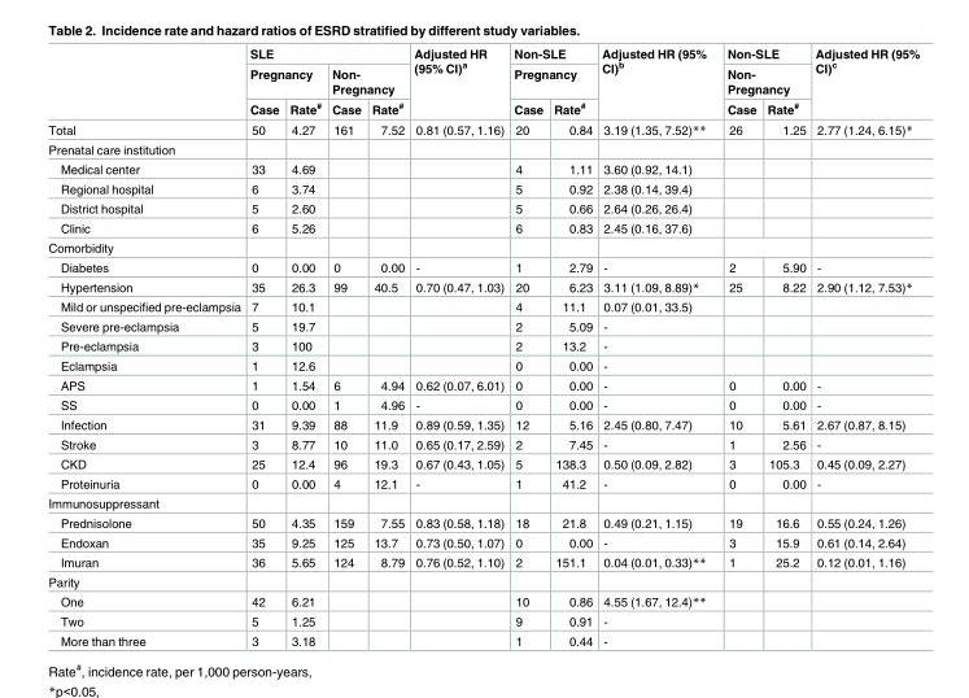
<table><thead><tr><td rowspan="3"></td><td colspan="4">SLE</td><td rowspan="3">Adjusted HR (95% CI)<sup>a</sup></td><td rowspan="2" colspan="2">Non-SLE Pregnancy</td><td rowspan="3">Adjusted HR (95% CI)<sup>b</sup></td><td rowspan="2" colspan="2">Non-SLE Non- Pregnancy</td><td rowspan="3">Adjusted HR (95% CI)<sup>c</sup></td></tr><tr><td colspan="2">Pregnancy</td><td colspan="2">Non- Pregnancy</td></tr><tr><td>Case</td><td>Rate<sup>#</sup></td><td>Case</td><td>Rate<sup>#</sup></td><td>Case</td><td>Rate<sup>#</sup></td><td>Case</td><td>Rate<sup>#</sup></td></tr></thead><tbody><tr><td>Total</td><td>50</td><td>4.27</td><td>161</td><td>7.52</td><td>0.81 (0.57, 1.16)</td><td>20</td><td>0.84</td><td>3.19 (1.35, 7.52)**</td><td>26</td><td>1.25</td><td>2.77 (1.24, 6.15)*</td></tr><tr><td colspan="12">Prenatal care institution</td></tr><tr><td>Medical center</td><td>33</td><td>4.69</td><td></td><td></td><td></td><td>4</td><td>1.11</td><td>3.60 (0.92, 14.1)</td><td></td><td></td><td></td></tr><tr><td>Regional hospital</td><td>6</td><td>3.74</td><td></td><td></td><td></td><td>5</td><td>0.92</td><td>2.38 (0.14, 39.4)</td><td></td><td></td><td></td></tr><tr><td>District hospital</td><td>5</td><td>2.60</td><td></td><td></td><td></td><td>5</td><td>0.66</td><td>2.64 (0.26, 26.4)</td><td></td><td></td><td></td></tr><tr><td>Clinic</td><td>6</td><td>5.26</td><td></td><td></td><td></td><td>6</td><td>0.83</td><td>2.45 (0.16, 37.6)</td><td></td><td></td><td></td></tr><tr><td colspan="12">Comorbidity</td></tr><tr><td>Diabetes</td><td>0</td><td>0.00</td><td>0</td><td>0.00</td><td>-</td><td>1</td><td>2.79</td><td>-</td><td>2</td><td>5.90</td><td>-</td></tr><tr><td>Hypertension</td><td>35</td><td>26.3</td><td>99</td><td>40.5</td><td>0.70 (0.47, 1.03)</td><td>20</td><td>6.23</td><td>3.11 (1.09, 8.89)*</td><td>25</td><td>8.22</td><td>2.90 (1.12, 7.53)*</td></tr><tr><td>Mild or unspecified pre-eclampsia</td><td>7</td><td>10.1</td><td></td><td></td><td></td><td>4</td><td>11.1</td><td>0.07 (0.01, 33.5)</td><td></td><td></td><td></td></tr><tr><td>Severe pre-eclampsia</td><td>5</td><td>19.7</td><td></td><td></td><td></td><td>2</td><td>5.09</td><td>-</td><td></td><td></td><td></td></tr><tr><td>Pre-eclampsia</td><td>3</td><td>100</td><td></td><td></td><td></td><td>2</td><td>13.2</td><td>-</td><td></td><td></td><td></td></tr><tr><td>Eclampsia</td><td>1</td><td>12.6</td><td></td><td></td><td></td><td>0</td><td>0.00</td><td>-</td><td></td><td></td><td></td></tr><tr><td>APS</td><td>1</td><td>1.54</td><td>6</td><td>4.94</td><td>0.62 (0.07, 6.01)</td><td>0</td><td>0.00</td><td>-</td><td>0</td><td>0.00</td><td>-</td></tr><tr><td>SS</td><td>0</td><td>0.00</td><td>1</td><td>4.96</td><td>-</td><td>0</td><td>0.00</td><td>-</td><td>0</td><td>0.00</td><td>-</td></tr><tr><td>Infection</td><td>31</td><td>9.39</td><td>88</td><td>11.9</td><td>0.89 (0.59, 1.35)</td><td>12</td><td>5.16</td><td>2.45 (0.80, 7.47)</td><td>10</td><td>5.61</td><td>2.67 (0.87, 8.15)</td></tr><tr><td>Stroke</td><td>3</td><td>8.77</td><td>10</td><td>11.0</td><td>0.65 (0.17, 2.59)</td><td>2</td><td>7.45</td><td>-</td><td>1</td><td>2.56</td><td>-</td></tr><tr><td>CKD</td><td>25</td><td>12.4</td><td>96</td><td>19.3</td><td>0.67 (0.43, 1.05)</td><td>5</td><td>138.3</td><td>0.50 (0.09, 2.82)</td><td>3</td><td>105.3</td><td>0.45 (0.09, 2.27)</td></tr><tr><td>Proteinuria</td><td>0</td><td>0.00</td><td>4</td><td>12.1</td><td>-</td><td>1</td><td>41.2</td><td>-</td><td>0</td><td>0.00</td><td>-</td></tr><tr><td colspan="12">Immunosuppressant</td></tr><tr><td>Prednisolone</td><td>50</td><td>4.35</td><td>159</td><td>7.55</td><td>0.83 (0.58, 1.18)</td><td>18</td><td>21.8</td><td>0.49 (0.21, 1.15)</td><td>19</td><td>16.6</td><td>0.55 (0.24, 1.26)</td></tr><tr><td>Endoxan</td><td>35</td><td>9.25</td><td>125</td><td>13.7</td><td>0.73 (0.50, 1.07)</td><td>0</td><td>0.00</td><td>-</td><td>3</td><td>15.9</td><td>0.61 (0.14, 2.64)</td></tr><tr><td>Imuran</td><td>36</td><td>5.65</td><td>124</td><td>8.79</td><td>0.76 (0.52, 1.10)</td><td>2</td><td>151.1</td><td>0.04 (0.01, 0.33)**</td><td>1</td><td>25.2</td><td>0.12 (0.01, 1.16)</td></tr><tr><td colspan="12">Parity</td></tr><tr><td>One</td><td>42</td><td>6.21</td><td></td><td></td><td></td><td>10</td><td>0.86</td><td>4.55 (1.67, 12.4)**</td><td></td><td></td><td></td></tr><tr><td>Two</td><td>5</td><td>1.25</td><td></td><td></td><td></td><td>9</td><td>0.91</td><td>-</td><td></td><td></td><td></td></tr><tr><td>More than three</td><td>3</td><td>3.18</td><td></td><td></td><td></td><td>1</td><td>0.44</td><td>-</td><td></td><td></td><td></td></tr></tbody></table>